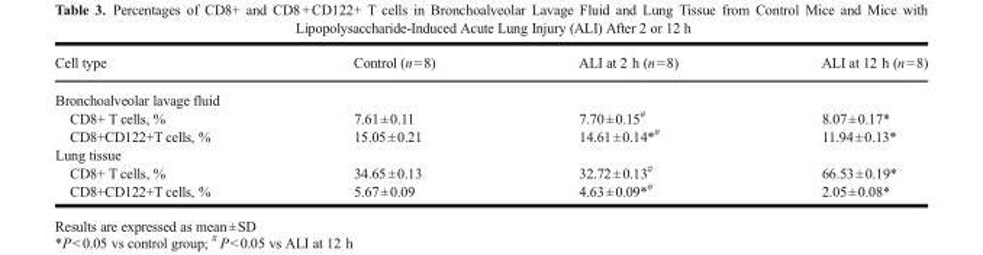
<table><thead><tr><td>Cell type</td><td>Control (n=8)</td><td>ALI at 2 h (n=8)</td><td>ALI at 12 h (n=8)</td></tr></thead><tbody><tr><td colspan="4">Bronchoalveolar lavage fluid</td></tr><tr><td>CD8+ T cells, %</td><td>7.61±0.11</td><td>7.70±0.15<sup>#</sup></td><td>8.07±0.17*</td></tr><tr><td>CD8+CD122+T cells, %</td><td>15.05±0.21</td><td>14.61±0.14*<sup>#</sup></td><td>11.94±0.13*</td></tr><tr><td colspan="4">Lung tissue</td></tr><tr><td>CD8+ T cells, %</td><td>34.65±0.13</td><td>32.72±0.13<sup>#</sup></td><td>66.53±0.19*</td></tr><tr><td>CD8+CD122+T cells, %</td><td>5.67±0.09</td><td>4.63±0.09*<sup>#</sup></td><td>2.05±0.08*</td></tr></tbody></table>